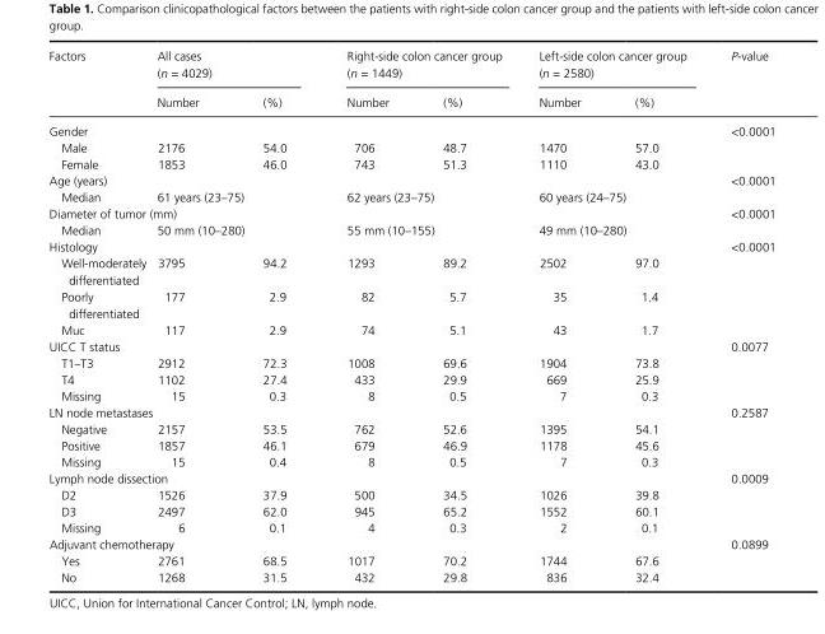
<table><thead><tr><td rowspan="2">Factors</td><td colspan="2">All cases (n = 4029)</td><td colspan="2">Right- side colon cancer group (n = 1449)</td><td colspan="2">Left- side colon cancer group (n = 2580)</td><td rowspan="2">P- value</td></tr><tr><td>Number</td><td>(%)</td><td>Number</td><td>(%)</td><td>Number</td><td>(%)</td></tr></thead><tbody><tr><td colspan="7">Gender</td><td>&lt;0.0001</td></tr><tr><td>Male</td><td>2176</td><td>54.0</td><td>706</td><td>48.7</td><td>1470</td><td>57.0</td><td></td></tr><tr><td>Female</td><td>1853</td><td>46.0</td><td>743</td><td>51.3</td><td>1110</td><td>43.0</td><td></td></tr><tr><td colspan="7">Age (years)</td><td>&lt;0.0001</td></tr><tr><td>Median</td><td colspan="2">61 years (23–75)</td><td colspan="2">62 years (23–75)</td><td colspan="2">60 years (24–75)</td><td></td></tr><tr><td colspan="7">Diameter of tumor (mm)</td><td>&lt;0.0001</td></tr><tr><td>Median</td><td colspan="2">50 mm (10–280)</td><td colspan="2">55 mm (10–155)</td><td colspan="2">49 mm (10–280)</td><td></td></tr><tr><td colspan="7">Histology</td><td>&lt;0.0001</td></tr><tr><td>Well- moderately differentiated</td><td>3795</td><td>94.2</td><td>1293</td><td>89.2</td><td>2502</td><td>97.0</td><td></td></tr><tr><td>Poorly differentiated</td><td>177</td><td>2.9</td><td>82</td><td>5.7</td><td>35</td><td>1.4</td><td></td></tr><tr><td>Muc</td><td>117</td><td>2.9</td><td>74</td><td>5.1</td><td>43</td><td>1.7</td><td></td></tr><tr><td colspan="7">UICC T status</td><td>0.0077</td></tr><tr><td>T1–T3</td><td>2912</td><td>72.3</td><td>1008</td><td>69.6</td><td>1904</td><td>73.8</td><td></td></tr><tr><td>T4</td><td>1102</td><td>27.4</td><td>433</td><td>29.9</td><td>669</td><td>25.9</td><td></td></tr><tr><td>Missing</td><td>15</td><td>0.3</td><td>8</td><td>0.5</td><td>7</td><td>0.3</td><td></td></tr><tr><td colspan="7">LN node metastases</td><td>0.2587</td></tr><tr><td>Negative</td><td>2157</td><td>53.5</td><td>762</td><td>52.6</td><td>1395</td><td>54.1</td><td></td></tr><tr><td>Positive</td><td>1857</td><td>46.1</td><td>679</td><td>46.9</td><td>1178</td><td>45.6</td><td></td></tr><tr><td>Missing</td><td>15</td><td>0.4</td><td>8</td><td>0.5</td><td>7</td><td>0.3</td><td></td></tr><tr><td colspan="7">Lymph node dissection</td><td>0.0009</td></tr><tr><td>D2</td><td>1526</td><td>37.9</td><td>500</td><td>34.5</td><td>1026</td><td>39.8</td><td></td></tr><tr><td>D3</td><td>2497</td><td>62.0</td><td>945</td><td>65.2</td><td>1552</td><td>60.1</td><td></td></tr><tr><td>Missing</td><td>6</td><td>0.1</td><td>4</td><td>0.3</td><td>2</td><td>0.1</td><td></td></tr><tr><td colspan="7">Adjuvant chemotherapy</td><td>0.0899</td></tr><tr><td>Yes</td><td>2761</td><td>68.5</td><td>1017</td><td>70.2</td><td>1744</td><td>67.6</td><td></td></tr><tr><td>No</td><td>1268</td><td>31.5</td><td>432</td><td>29.8</td><td>836</td><td>32.4</td><td></td></tr></tbody></table>